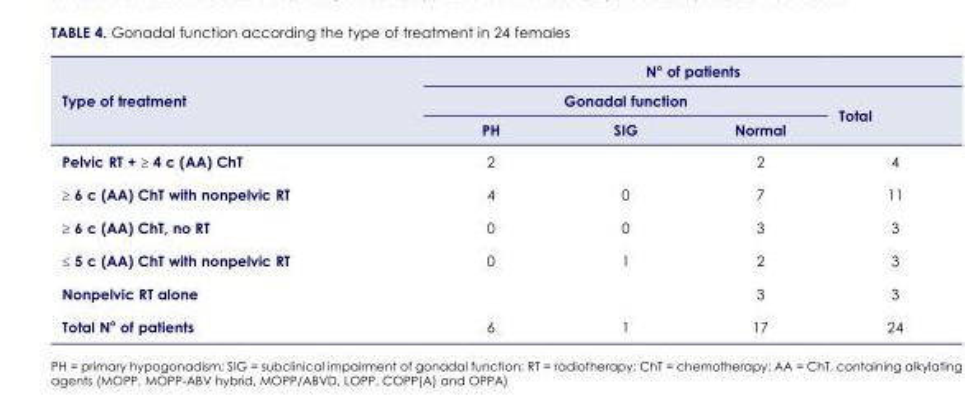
<table><thead><tr><td rowspan="3">Type of treatment</td><td colspan="4">N° of patients</td></tr><tr><td colspan="3">Gonadal function</td><td rowspan="2">Total</td></tr><tr><td>PH</td><td>SIG</td><td>Normal</td></tr></thead><tbody><tr><td>Pelvic RT + ≥ 4 c (AA) ChT</td><td>2</td><td></td><td>2</td><td>4</td></tr><tr><td>≥ 6 c (AA) ChT with nonpelvic RT</td><td>4</td><td>0</td><td>7</td><td>11</td></tr><tr><td>≥ 6 c (AA) ChT, no RT</td><td>0</td><td>0</td><td>3</td><td>3</td></tr><tr><td>≤ 5 c (AA) ChT with nonpelvic RT</td><td>0</td><td>1</td><td>2</td><td>3</td></tr><tr><td>Nonpelvic RT alone</td><td></td><td></td><td>3</td><td>3</td></tr><tr><td>Total N° of patients</td><td>6</td><td>1</td><td>17</td><td>24</td></tr></tbody></table>